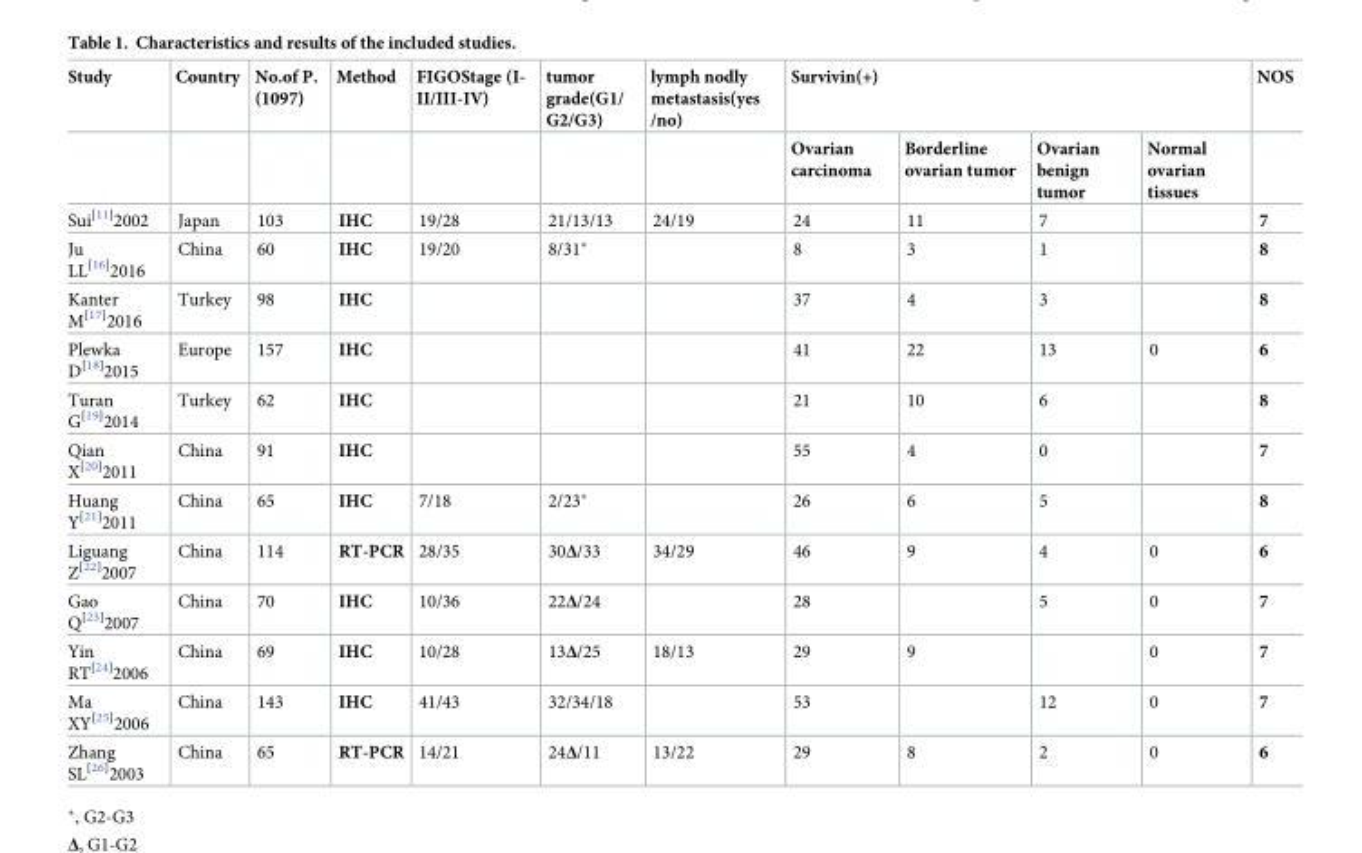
<table><thead><tr><td rowspan="2">Study</td><td rowspan="2">Country</td><td rowspan="2">No.of P. (1097)</td><td rowspan="2">Method</td><td rowspan="2">FIGOStage (I- II/III-IV)</td><td rowspan="2">tumor grade(G1/ G2/G3)</td><td rowspan="2">lymph nodly metastasis(yes /no)</td><td colspan="4">Survivin(+)</td><td rowspan="2">NOS</td></tr><tr><td>Ovarian carcinoma</td><td>Borderline ovarian tumor</td><td>Ovarian benign tumor</td><td>Normal ovarian tissues</td></tr></thead><tbody><tr><td>Sui<sup>[11]</sup>2002</td><td>Japan</td><td>103</td><td>IHC</td><td>19/28</td><td>21/13/13</td><td>24/19</td><td>24</td><td>11</td><td>7</td><td></td><td>7</td></tr><tr><td>Ju LL<sup>[16]</sup>2016</td><td>China</td><td>60</td><td>IHC</td><td>19/20</td><td>8/31*</td><td></td><td>8</td><td>3</td><td>1</td><td></td><td>8</td></tr><tr><td>Kanter M<sup>[17]</sup>2016</td><td>Turkey</td><td>98</td><td>IHC</td><td></td><td></td><td></td><td>37</td><td>4</td><td>3</td><td></td><td>8</td></tr><tr><td>Plewka D<sup>[18]</sup>2015</td><td>Europe</td><td>157</td><td>IHC</td><td></td><td></td><td></td><td>41</td><td>22</td><td>13</td><td>0</td><td>6</td></tr><tr><td>Turan G<sup>[19]</sup>2014</td><td>Turkey</td><td>62</td><td>IHC</td><td></td><td></td><td></td><td>21</td><td>10</td><td>6</td><td></td><td>8</td></tr><tr><td>Qian X<sup>[20]</sup>2011</td><td>China</td><td>91</td><td>IHC</td><td></td><td></td><td></td><td>55</td><td>4</td><td>0</td><td></td><td>7</td></tr><tr><td>Huang Y<sup>[21]</sup>2011</td><td>China</td><td>65</td><td>IHC</td><td>7/18</td><td>2/23*</td><td></td><td>26</td><td>6</td><td>5</td><td></td><td>8</td></tr><tr><td>Liguang Z<sup>[22]</sup>2007</td><td>China</td><td>114</td><td>RT-PCR</td><td>28/35</td><td>30Δ/33</td><td>34/29</td><td>46</td><td>9</td><td>4</td><td>0</td><td>6</td></tr><tr><td>Gao Q<sup>[23]</sup>2007</td><td>China</td><td>70</td><td>IHC</td><td>10/36</td><td>22Δ/24</td><td></td><td>28</td><td></td><td>5</td><td>0</td><td>7</td></tr><tr><td>Yin RT<sup>[24]</sup>2006</td><td>China</td><td>69</td><td>IHC</td><td>10/28</td><td>13Δ/25</td><td>18/13</td><td>29</td><td>9</td><td></td><td>0</td><td>7</td></tr><tr><td>Ma XY<sup>[25]</sup>2006</td><td>China</td><td>143</td><td>IHC</td><td>41/43</td><td>32/34/18</td><td></td><td>53</td><td></td><td>12</td><td>0</td><td>7</td></tr><tr><td>Zhang SL<sup>[26]</sup>2003</td><td>China</td><td>65</td><td>RT-PCR</td><td>14/21</td><td>24Δ/11</td><td>13/22</td><td>29</td><td>8</td><td>2</td><td>0</td><td>6</td></tr></tbody></table>